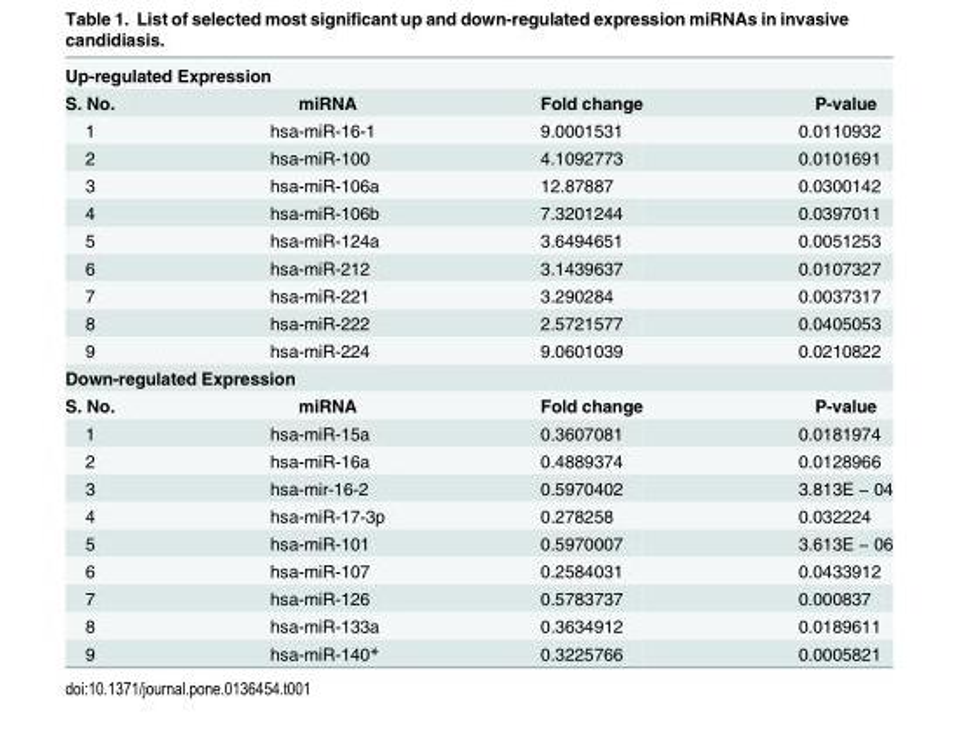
<table><tbody><tr><td colspan="4">Up-regulated Expression</td></tr><tr><td>S. No.</td><td>miRNA</td><td>Fold change</td><td>P-value</td></tr><tr><td>1</td><td>hsa-miR-16-1</td><td>9.0001531</td><td>0.0110932</td></tr><tr><td>2</td><td>hsa-miR-100</td><td>4.1092773</td><td>0.0101691</td></tr><tr><td>3</td><td>hsa-miR-106a</td><td>12.87887</td><td>0.0300142</td></tr><tr><td>4</td><td>hsa-miR-106b</td><td>7.3201244</td><td>0.0397011</td></tr><tr><td>5</td><td>hsa-miR-124a</td><td>3.6494651</td><td>0.0051253</td></tr><tr><td>6</td><td>hsa-miR-212</td><td>3.1439637</td><td>0.0107327</td></tr><tr><td>7</td><td>hsa-miR-221</td><td>3.290284</td><td>0.0037317</td></tr><tr><td>8</td><td>hsa-miR-222</td><td>2.5721577</td><td>0.0405053</td></tr><tr><td>9</td><td>hsa-miR-224</td><td>9.0601039</td><td>0.0210822</td></tr><tr><td colspan="4">Down-regulated Expression</td></tr><tr><td>S. No.</td><td>miRNA</td><td>Fold change</td><td>P-value</td></tr><tr><td>1</td><td>hsa-miR-15a</td><td>0.3607081</td><td>0.0181974</td></tr><tr><td>2</td><td>hsa-miR-16a</td><td>0.4889374</td><td>0.0128966</td></tr><tr><td>3</td><td>hsa-mir-16-2</td><td>0.5970402</td><td>3.813E − 04</td></tr><tr><td>4</td><td>hsa-miR-17-3p</td><td>0.278258</td><td>0.032224</td></tr><tr><td>5</td><td>hsa-miR-101</td><td>0.5970007</td><td>3.613E − 06</td></tr><tr><td>6</td><td>hsa-miR-107</td><td>0.2584031</td><td>0.0433912</td></tr><tr><td>7</td><td>hsa-miR-126</td><td>0.5783737</td><td>0.000837</td></tr><tr><td>8</td><td>hsa-miR-133a</td><td>0.3634912</td><td>0.0189611</td></tr><tr><td>9</td><td>hsa-miR-140*</td><td>0.3225766</td><td>0.0005821</td></tr></tbody></table>